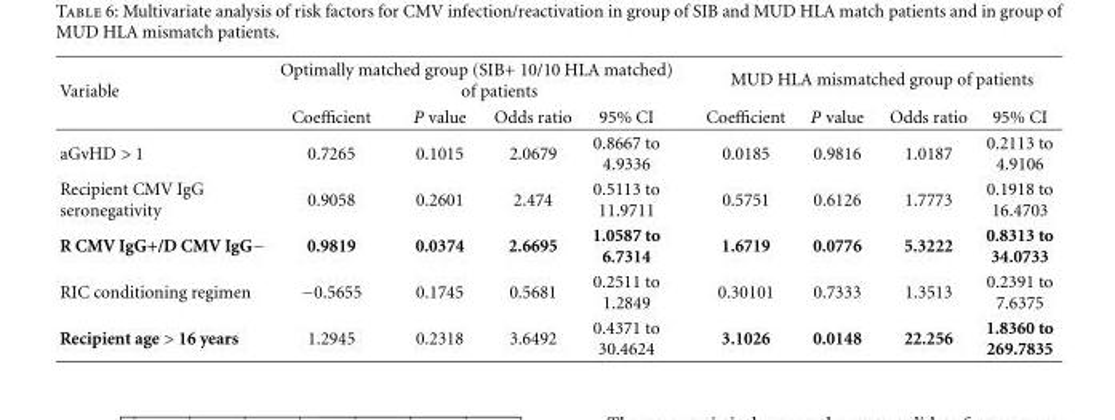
<table><thead><tr><td rowspan="2">Variable</td><td colspan="4">Optimally matched group (SIB+ 10/10 HLA matched) of patients</td><td colspan="4">MUD HLA mismatched group of patients</td></tr><tr><td>Coefficient</td><td>P value</td><td>Odds ratio</td><td>95% CI</td><td>Coefficient</td><td>P value</td><td>Odds ratio</td><td>95% CI</td></tr></thead><tbody><tr><td>aGvHD &gt; 1</td><td>0.7265</td><td>0.1015</td><td>2.0679</td><td>0.8667 to 4.9336</td><td>0.0185</td><td>0.9816</td><td>1.0187</td><td>0.2113 to 4.9106</td></tr><tr><td>Recipient CMV IgG seronegativity</td><td>0.9058</td><td>0.2601</td><td>2.474</td><td>0.5113 to 11.9711</td><td>0.5751</td><td>0.6126</td><td>1.7773</td><td>0.1918 to 16.4703</td></tr><tr><td>R CMV IgG+/D CMV IgG−</td><td>0.9819</td><td>0.0374</td><td>2.6695</td><td>1.0587 to 6.7314</td><td>1.6719</td><td>0.0776</td><td>5.3222</td><td>0.8313 to 34.0733</td></tr><tr><td>RIC conditioning regimen</td><td>−0.5655</td><td>0.1745</td><td>0.5681</td><td>0.2511 to 1.2849</td><td>0.30101</td><td>0.7333</td><td>1.3513</td><td>0.2391 to 7.6375</td></tr><tr><td>Recipient age &gt; 16 years</td><td>1.2945</td><td>0.2318</td><td>3.6492</td><td>0.4371 to 30.4624</td><td>3.1026</td><td>0.0148</td><td>22.256</td><td>1.8360 to 269.7835</td></tr></tbody></table>